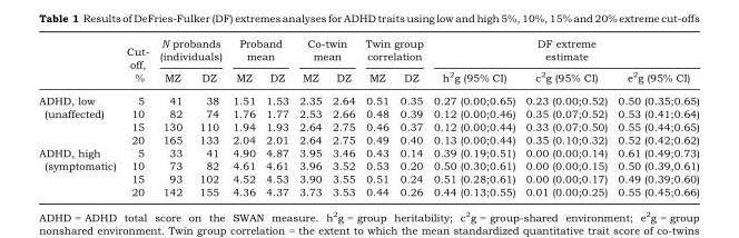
<table><thead><tr><td rowspan="2"></td><td rowspan="2">Cut- off, %</td><td colspan="2">N probands (individuals)</td><td colspan="2">Proband mean</td><td colspan="2">Co-twin mean</td><td colspan="2">Twin group correlation</td><td colspan="3">DF extreme estimate</td></tr><tr><td>MZ</td><td>DZ</td><td>MZ</td><td>DZ</td><td>MZ</td><td>DZ</td><td>MZ</td><td>DZ</td><td>h<sup>2</sup>g (95% CI)</td><td>c<sup>2</sup>g (95% CI)</td><td>e<sup>2</sup>g (95% CI)</td></tr></thead><tbody><tr><td rowspan="4">ADHD, low (unaffected)</td><td>5</td><td>41</td><td>38</td><td>1.51</td><td>1.53</td><td>2.35</td><td>2.64</td><td>0.51</td><td>0.35</td><td>0.27 (0.00;0.65)</td><td>0.23 (0.00;0.52)</td><td>0.50 (0.35;0.65)</td></tr><tr><td>10</td><td>82</td><td>74</td><td>1.76</td><td>1.77</td><td>2.53</td><td>2.66</td><td>0.48</td><td>0.39</td><td>0.12 (0.00;0.46)</td><td>0.35 (0.07;0.52)</td><td>0.53 (0.41;0.64)</td></tr><tr><td>15</td><td>130</td><td>110</td><td>1.94</td><td>1.93</td><td>2.64</td><td>2.75</td><td>0.46</td><td>0.37</td><td>0.12 (0.00;0.44)</td><td>0.33 (0.07;0.50)</td><td>0.55 (0.44;0.65)</td></tr><tr><td>20</td><td>165</td><td>133</td><td>2.04</td><td>2.01</td><td>2.64</td><td>2.75</td><td>0.49</td><td>0.40</td><td>0.13 (0.00;0.44)</td><td>0.35 (0.10;0.32)</td><td>0.52 (0.42;0.62)</td></tr><tr><td rowspan="4">ADHD, high (symptomatic)</td><td>5</td><td>33</td><td>41</td><td>4.90</td><td>4.87</td><td>3.95</td><td>3.46</td><td>0.43</td><td>0.14</td><td>0.39 (0.19;0.51)</td><td>0.00 (0.00;0.14)</td><td>0.61 (0.49;0.73)</td></tr><tr><td>10</td><td>73</td><td>82</td><td>4.61</td><td>4.61</td><td>3.96</td><td>3.52</td><td>0.53</td><td>0.20</td><td>0.50 (0.30;0.61)</td><td>0.00 (0.00;0.15)</td><td>0.50 (0.39,0.61)</td></tr><tr><td>15</td><td>93</td><td>102</td><td>4.52</td><td>4.53</td><td>3.90</td><td>3.55</td><td>0.51</td><td>0.24</td><td>0.51 (0.28;0.61)</td><td>0.00 (0.00;0.17)</td><td>0.49 (0.39;0.60)</td></tr><tr><td>20</td><td>142</td><td>155</td><td>4.36</td><td>4.37</td><td>3.73</td><td>3.53</td><td>0.44</td><td>0.26</td><td>0.44 (0.13;0.55)</td><td>0.01 (0.00;0.25)</td><td>0.55 (0.45;0.66)</td></tr></tbody></table>